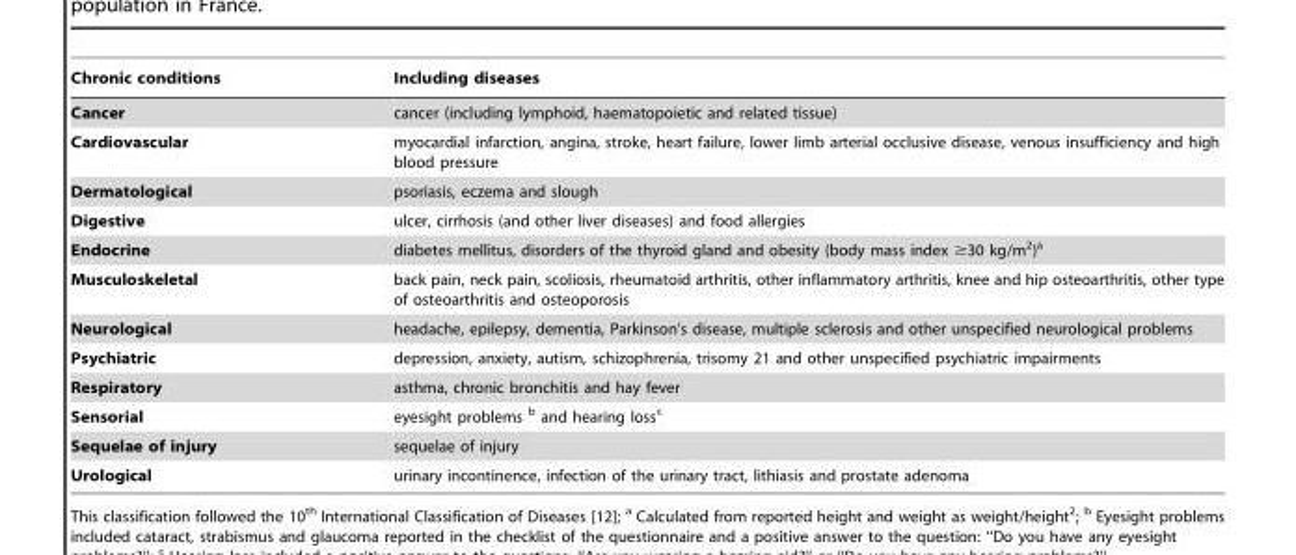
<table><thead><tr><td>Chronic conditions</td><td>Including diseases</td></tr></thead><tbody><tr><td>Cancer</td><td>cancer (including lymphoid, haematopoietic and related tissue)</td></tr><tr><td>Cardiovascular</td><td>myocardial infarction, angina, stroke, heart failure, lower limb arterial occlusive disease, venous insufficiency and high blood pressure</td></tr><tr><td>Dermatological</td><td>psoriasis, eczema and slough</td></tr><tr><td>Digestive</td><td>ulcer, cirrhosis (and other liver diseases) and food allergies</td></tr><tr><td>Endocrine</td><td>diabetes mellitus, disorders of the thyroid gland and obesity (body mass index ≥30 kg/m<sup>2</sup>)<sup>a</sup></td></tr><tr><td>Musculoskeletal</td><td>back pain, neck pain, scoliosis, rheumatoid arthritis, other inflammatory arthritis, knee and hip osteoarthritis, other type of osteoarthritis and osteoporosis</td></tr><tr><td>Neurological</td><td>headache, epilepsy, dementia, Parkinson’s disease, multiple sclerosis and other unspecified neurological problems</td></tr><tr><td>Psychiatric</td><td>depression, anxiety, autism, schizophrenia, trisomy 21 and other unspecified psychiatric impairments</td></tr><tr><td>Respiratory</td><td>asthma, chronic bronchitis and hay fever</td></tr><tr><td>Sensorial</td><td>eyesight problems <sup>b</sup> and hearing loss<sup>c</sup></td></tr><tr><td>Sequelae of injury</td><td>sequelae of injury</td></tr><tr><td>Urological</td><td>urinary incontinence, infection of the urinary tract, lithiasis and prostate adenoma</td></tr></tbody></table>